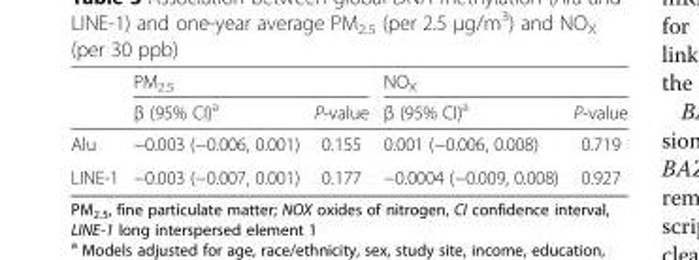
<table><thead><tr><td rowspan="2"></td><td colspan="2">PM<sub>2.5</sub></td><td colspan="2">NO<sub>X</sub></td></tr><tr><td>β (95% CI)<sup>a</sup></td><td>P-value</td><td>β (95% CI)<sup>a</sup></td><td>P-value</td></tr></thead><tbody><tr><td>Alu</td><td>−0.003 (−0.006, 0.001)</td><td>0.155</td><td>0.001 (−0.006, 0.008)</td><td>0.719</td></tr><tr><td>LINE-1</td><td>−0.003 (−0.007, 0.001)</td><td>0.177</td><td>−0.0004 (−0.009, 0.008)</td><td>0.927</td></tr></tbody></table>